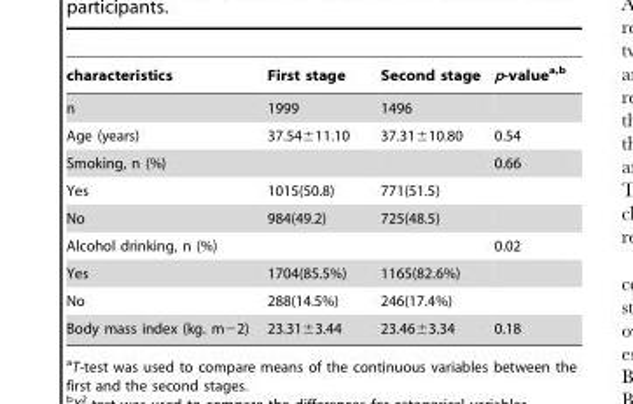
<table><thead><tr><td>characteristics</td><td>First stage</td><td>Second stage</td><td>p-value<sup>a,</sup>b</td></tr></thead><tbody><tr><td>n</td><td>1999</td><td>1496</td><td></td></tr><tr><td>Age (years)</td><td>37.54±11.10</td><td>37.31±10.80</td><td>0.54</td></tr><tr><td>Smoking, n (%)</td><td></td><td></td><td>0.66</td></tr><tr><td>Yes</td><td>1015(50.8)</td><td>771(51.5)</td><td></td></tr><tr><td>No</td><td>984(49.2)</td><td>725(48.5)</td><td></td></tr><tr><td>Alcohol drinking, n (%)</td><td></td><td></td><td>0.02</td></tr><tr><td>Yes</td><td>1704(85.5%)</td><td>1165(82.6%)</td><td></td></tr><tr><td>No</td><td>288(14.5%)</td><td>246(17.4%)</td><td></td></tr><tr><td>Body mass index (kg. m−2)</td><td>23.31±3.44</td><td>23.46±3.34</td><td>0.18</td></tr></tbody></table>